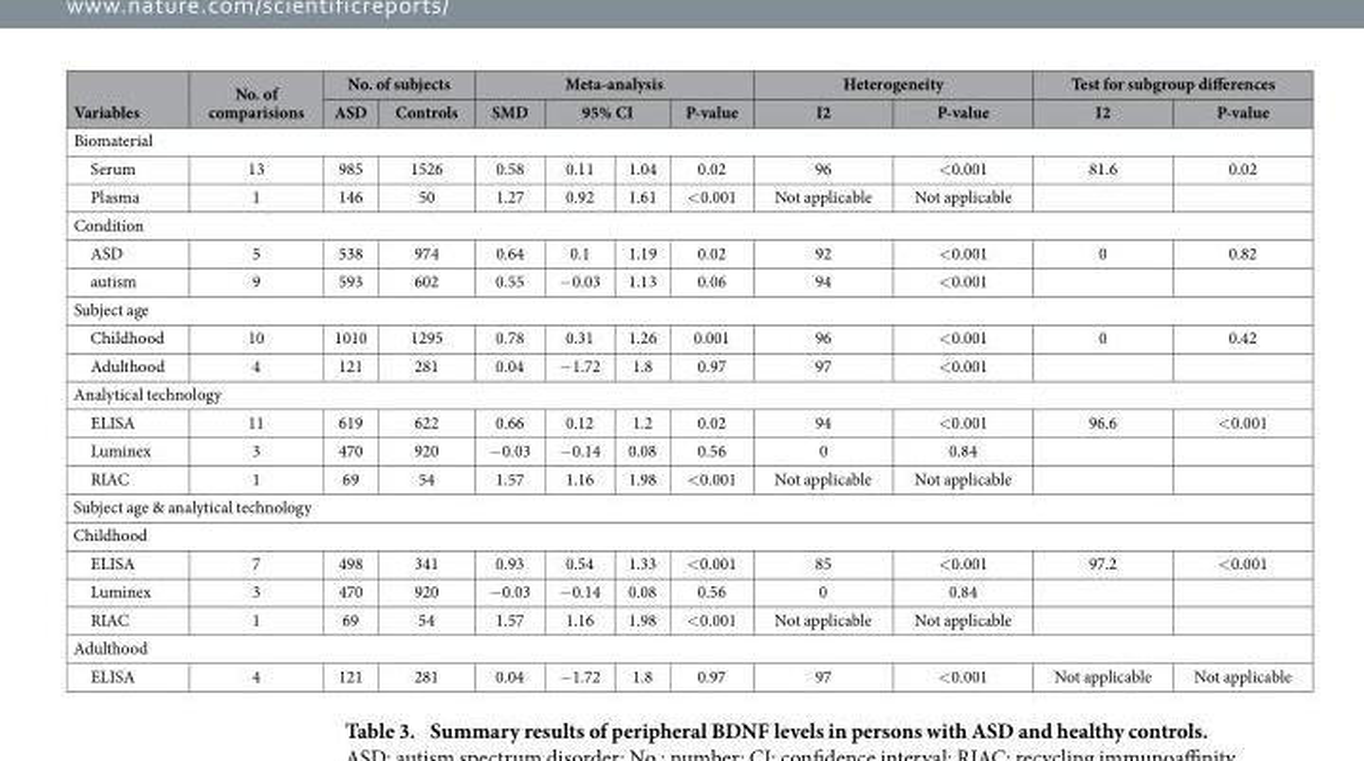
<table><thead><tr><td rowspan="2">Variables</td><td rowspan="2">No. of comparisions</td><td colspan="2">No. of subjects</td><td colspan="4">Meta-analysis</td><td colspan="2">Heterogeneity</td><td colspan="2">Test for subgroup differences</td></tr><tr><td>ASD</td><td>Controls</td><td>SMD</td><td colspan="2">95% CI</td><td>P-value</td><td>I2</td><td>P-value</td><td>I2</td><td>P-value</td></tr><tr><td colspan="12">Biomaterial</td></tr><tr><td>Serum</td><td>13</td><td>985</td><td>1526</td><td>0.58</td><td>0.11</td><td>1.04</td><td>0.02</td><td>96</td><td>&lt; 0.001</td><td>81.6</td><td>0.02</td></tr></thead><tbody><tr><td>Plasma</td><td>1</td><td>146</td><td>50</td><td>1.27</td><td>0.92</td><td>1.61</td><td>&lt; 0.001</td><td>Not applicable</td><td>Not applicable</td><td></td><td></td></tr><tr><td colspan="12">Condition</td></tr><tr><td>ASD</td><td>5</td><td>538</td><td>974</td><td>0.64</td><td>0.1</td><td>1.19</td><td>0.02</td><td>92</td><td>&lt; 0.001</td><td>0</td><td>0.82</td></tr><tr><td>autism</td><td>9</td><td>593</td><td>602</td><td>0.55</td><td>− 0.03</td><td>1.13</td><td>0.06</td><td>94</td><td>&lt; 0.001</td><td></td><td></td></tr><tr><td colspan="12">Subject age</td></tr><tr><td>Childhood</td><td>10</td><td>1010</td><td>1295</td><td>0.78</td><td>0.31</td><td>1.26</td><td>0.001</td><td>96</td><td>&lt; 0.001</td><td>0</td><td>0.42</td></tr><tr><td>Adulthood</td><td>4</td><td>121</td><td>281</td><td>0.04</td><td>− 1.72</td><td>1.8</td><td>0.97</td><td>97</td><td>&lt; 0.001</td><td></td><td></td></tr><tr><td colspan="12">Analytical technology</td></tr><tr><td>ELISA</td><td>11</td><td>619</td><td>622</td><td>0.66</td><td>0.12</td><td>1.2</td><td>0.02</td><td>94</td><td>&lt; 0.001</td><td>96.6</td><td>&lt; 0.001</td></tr><tr><td>Luminex</td><td>3</td><td>470</td><td>920</td><td>− 0.03</td><td>− 0.14</td><td>0.08</td><td>0.56</td><td>0</td><td>0.84</td><td></td><td></td></tr><tr><td>RIAC</td><td>1</td><td>69</td><td>54</td><td>1.57</td><td>1.16</td><td>1.98</td><td>&lt; 0.001</td><td>Not applicable</td><td>Not applicable</td><td></td><td></td></tr><tr><td colspan="12">Subject age &amp; analytical technology</td></tr><tr><td colspan="12">Childhood</td></tr><tr><td>ELISA</td><td>7</td><td>498</td><td>341</td><td>0.93</td><td>0.54</td><td>1.33</td><td>&lt; 0.001</td><td>85</td><td>&lt; 0.001</td><td>97.2</td><td>&lt; 0.001</td></tr><tr><td>Luminex</td><td>3</td><td>470</td><td>920</td><td>− 0.03</td><td>− 0.14</td><td>0.08</td><td>0.56</td><td>0</td><td>0.84</td><td></td><td></td></tr><tr><td>RIAC</td><td>1</td><td>69</td><td>54</td><td>1.57</td><td>1.16</td><td>1.98</td><td>&lt; 0.001</td><td>Not applicable</td><td>Not applicable</td><td></td><td></td></tr><tr><td colspan="12">Adulthood</td></tr><tr><td>ELISA</td><td>4</td><td>121</td><td>281</td><td>0.04</td><td>− 1.72</td><td>1.8</td><td>0.97</td><td>97</td><td>&lt; 0.001</td><td>Not applicable</td><td>Not applicable</td></tr></tbody></table>